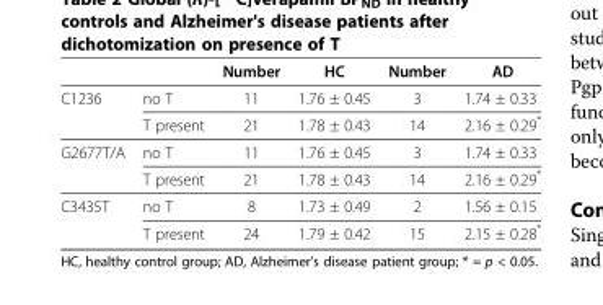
<table><thead><tr><td></td><td></td><td>Number</td><td>HC</td><td>Number</td><td>AD</td></tr></thead><tbody><tr><td rowspan="2">C1236</td><td>no T</td><td>11</td><td>1.76 ± 0.45</td><td>3</td><td>1.74 ± 0.33</td></tr><tr><td>T present</td><td>21</td><td>1.78 ± 0.43</td><td>14</td><td>2.16 ± 0.29*</td></tr><tr><td rowspan="2">G2677T/A</td><td>no T</td><td>11</td><td>1.76 ± 0.45</td><td>3</td><td>1.74 ± 0.33</td></tr><tr><td>T present</td><td>21</td><td>1.78 ± 0.43</td><td>14</td><td>2.16 ± 0.29*</td></tr><tr><td rowspan="2">C3435T</td><td>no T</td><td>8</td><td>1.73 ± 0.49</td><td>2</td><td>1.56 ± 0.15</td></tr><tr><td>T present</td><td>24</td><td>1.79 ± 0.42</td><td>15</td><td>2.15 ± 0.28*</td></tr></tbody></table>